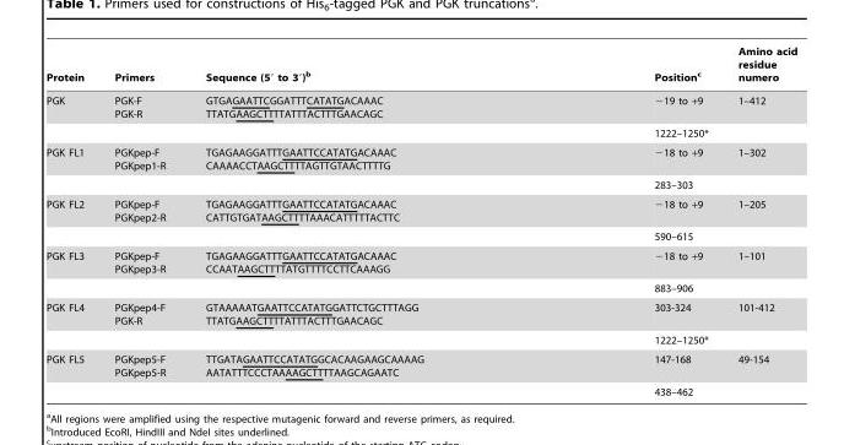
<table><thead><tr><td>Protein</td><td>Primers</td><td>Sequence (5′ to 3′)<sup>b</sup></td><td>Position<sup>c</sup></td><td>Amino acid residue numero</td></tr></thead><tbody><tr><td rowspan="2">PGK</td><td>PGK-F PGK-R</td><td>GTGAGAATTCGGATTTCATATGACAAAC TTATGAAGCTTTTATTTACTTTGAACAGC</td><td>−19 to +9</td><td>1–412</td></tr><tr><td></td><td></td><td>1222–1250*</td><td></td></tr><tr><td rowspan="2">PGK FL1</td><td>PGKpep-F PGKpep1-R</td><td>TGAGAAGGATTTGAATTCCATATGACAAAC CAAAACCTAAGCTTTTAGTTGTAACTTTTG</td><td>−18 to +9</td><td>1–302</td></tr><tr><td></td><td></td><td>283–303</td><td></td></tr><tr><td rowspan="2">PGK FL2</td><td>PGKpep-F PGKpep2-R</td><td>TGAGAAGGATTTGAATTCCATATGACAAAC CATTGTGATAAGCTTTTAAACATTTTTACTTC</td><td>−18 to +9</td><td>1–205</td></tr><tr><td></td><td></td><td>590–615</td><td></td></tr><tr><td rowspan="2">PGK FL3</td><td>PGKpep-F PGKpep3-R</td><td>TGAGAAGGATTTGAATTCCATATGACAAAC CCAATAAGCTTTTATGTTTTCCTTCAAAGG</td><td>−18 to +9</td><td>1–101</td></tr><tr><td></td><td></td><td>883–906</td><td></td></tr><tr><td rowspan="2">PGK FL4</td><td>PGKpep4-F PGK-R</td><td>GTAAAAATGAATTCCATATGGATTCTGCTTTAGG TTATGAAGCTTTTATTTACTTTGAACAGC</td><td>303-324</td><td>101-412</td></tr><tr><td></td><td></td><td>1222–1250*</td><td></td></tr><tr><td rowspan="2">PGK FL5</td><td>PGKpep5-F PGKpep5-R</td><td>TTGATAGAATTCCATATGGCACAAGAAGCAAAAG AATATTTCCCTAAAAGCTTTTAAGCAGAATC</td><td>147-168</td><td>49-154</td></tr><tr><td></td><td></td><td>438–462</td><td></td></tr></tbody></table>